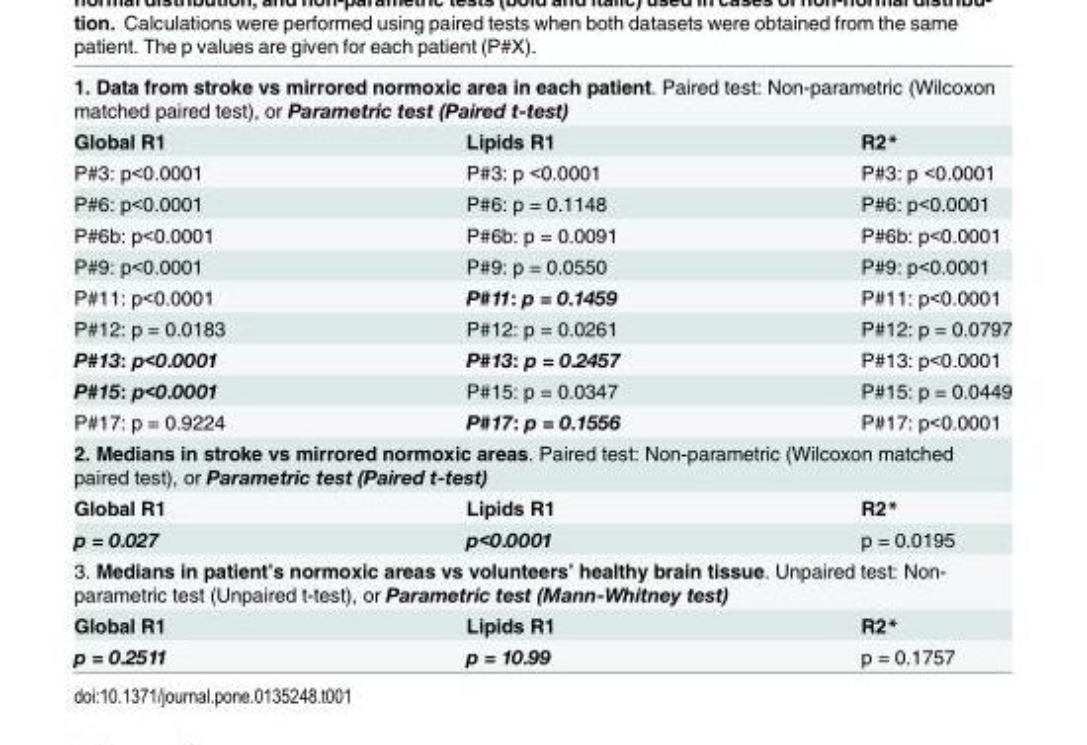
<table><tbody><tr><td colspan="3">1. Data from stroke vs mirrored normoxic area in each patient. Paired test: Non-parametric (Wilcoxon matched paired test), or Parametric test (Paired t-test)</td></tr><tr><td>Global R1</td><td>Lipids R1</td><td>R2*</td></tr><tr><td>P#3: p&lt;0.0001</td><td>P#3: p &lt;0.0001</td><td>P#3: p &lt;0.0001</td></tr><tr><td>P#6: p&lt;0.0001</td><td>P#6: p = 0.1148</td><td>P#6: p&lt;0.0001</td></tr><tr><td>P#6b: p&lt;0.0001</td><td>P#6b: p = 0.0091</td><td>P#6b: p&lt;0.0001</td></tr><tr><td>P#9: p&lt;0.0001</td><td>P#9: p = 0.0550</td><td>P#9: p&lt;0.0001</td></tr><tr><td>P#11: p&lt;0.0001</td><td>P#11: p = 0.1459</td><td>P#11: p&lt;0.0001</td></tr><tr><td>P#12: p = 0.0183</td><td>P#12: p = 0.0261</td><td>P#12: p = 0.0797</td></tr><tr><td>P#13: p&lt;0.0001</td><td>P#13: p = 0.2457</td><td>P#13: p&lt;0.0001</td></tr><tr><td>P#15: p&lt;0.0001</td><td>P#15: p = 0.0347</td><td>P#15: p = 0.0449</td></tr><tr><td>P#17: p = 0.9224</td><td>P#17: p = 0.1556</td><td>P#17: p&lt;0.0001</td></tr><tr><td colspan="3">2. Medians in stroke vs mirrored normoxic areas. Paired test: Non-parametric (Wilcoxon matched paired test), or Parametric test (Paired t-test)</td></tr><tr><td>Global R1</td><td>Lipids R1</td><td>R2*</td></tr><tr><td>p = 0.027</td><td>p&lt;0.0001</td><td>p = 0.0195</td></tr><tr><td colspan="3">3. Medians in patient’s normoxic areas vs volunteers’ healthy brain tissue. Unpaired test: Non- parametric test (Unpaired t-test), or Parametric test (Mann-Whitney test)</td></tr><tr><td>Global R1</td><td>Lipids R1</td><td>R2*</td></tr><tr><td>p = 0.2511</td><td>p = 10.99</td><td>p = 0.1757</td></tr></tbody></table>